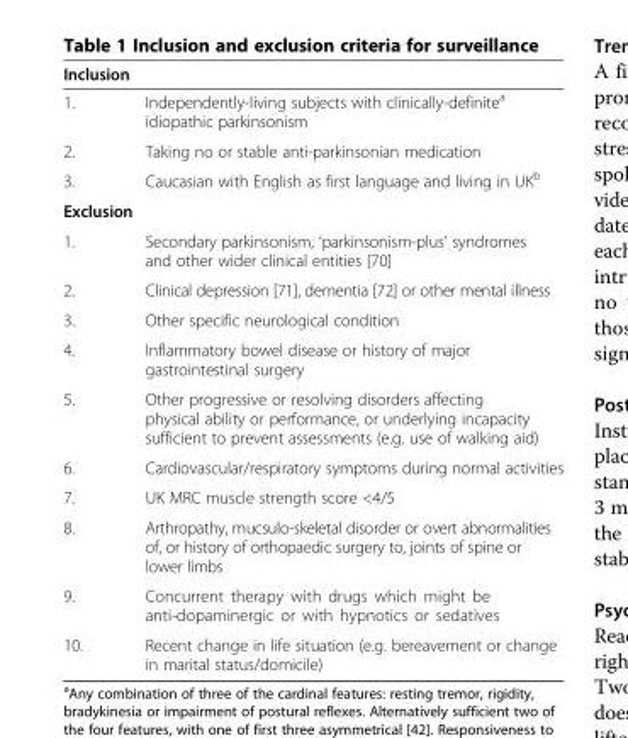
<table><thead><tr><td>Inclusion</td><td></td></tr></thead><tbody><tr><td>1.</td><td>Independently-living subjects with clinically-definite<sup>a</sup> idiopathic parkinsonism</td></tr><tr><td>2.</td><td>Taking no or stable anti-parkinsonian medication</td></tr><tr><td>3.</td><td>Caucasian with English as first language and living in UK<sup>b</sup></td></tr><tr><td colspan="2">Exclusion</td></tr><tr><td>1.</td><td>Secondary parkinsonism, ‘parkinsonism-plus’ syndromes and other wider clinical entities [70]</td></tr><tr><td>2.</td><td>Clinical depression [71], dementia [72] or other mental illness</td></tr><tr><td>3.</td><td>Other specific neurological condition</td></tr><tr><td>4.</td><td>Inflammatory bowel disease or history of major gastrointestinal surgery</td></tr><tr><td>5.</td><td>Other progressive or resolving disorders affecting physical ability or performance, or underlying incapacity sufficient to prevent assessments (e.g. use of walking aid)</td></tr><tr><td>6.</td><td>Cardiovascular/respiratory symptoms during normal activities</td></tr><tr><td>7.</td><td>UK MRC muscle strength score &lt;4/5</td></tr><tr><td>8.</td><td>Arthropathy, mucsulo-skeletal disorder or overt abnormalities of, or history of orthopaedic surgery to, joints of spine or lower limbs</td></tr><tr><td>9.</td><td>Concurrent therapy with drugs which might be anti-dopaminergic or with hypnotics or sedatives</td></tr><tr><td>10.</td><td>Recent change in life situation (e.g. bereavement or change in marital status/domicile)</td></tr></tbody></table>